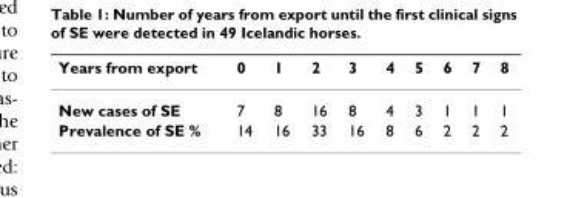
<table><thead><tr><td>Years from export</td><td>0</td><td>1</td><td>2</td><td>3</td><td>4</td><td>5</td><td>6</td><td>7</td><td>8</td></tr></thead><tbody><tr><td>New cases of SE</td><td>7</td><td>8</td><td>16</td><td>8</td><td>4</td><td>3</td><td>1</td><td>1</td><td>1</td></tr><tr><td>Prevalence of SE %</td><td>14</td><td>16</td><td>33</td><td>16</td><td>8</td><td>6</td><td>2</td><td>2</td><td>2</td></tr></tbody></table>